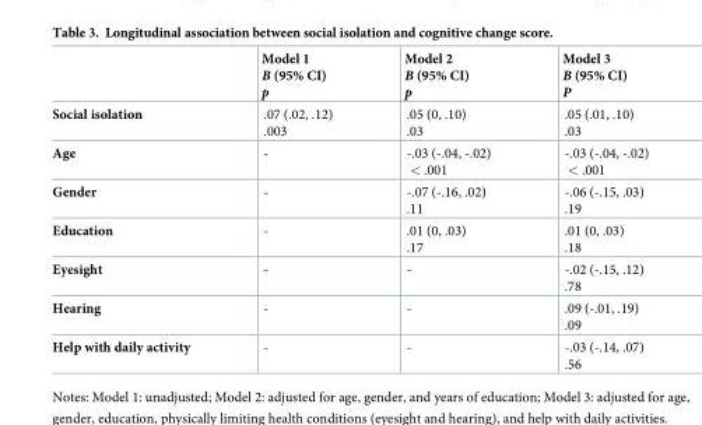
<table><thead><tr><td></td><td>Model 1 B (95% CI) p</td><td>Model 2 B (95% CI) p</td><td>Model 3 B (95% CI) P</td></tr></thead><tbody><tr><td>Social isolation</td><td>.07 (.02, .12) .003</td><td>.05 (0, .10) .03</td><td>.05 (.01, .10) .03</td></tr><tr><td>Age</td><td>-</td><td>-.03 (-.04, -.02) &lt; .001</td><td>-.03 (-.04, -.02) &lt; .001</td></tr><tr><td>Gender</td><td>-</td><td>-.07 (-.16, .02) .11</td><td>-.06 (-.15, .03) .19</td></tr><tr><td>Education</td><td>-</td><td>.01 (0, .03) .17</td><td>.01 (0, .03) .18</td></tr><tr><td>Eyesight</td><td>-</td><td>-</td><td>-.02 (-.15, .12) .78</td></tr><tr><td>Hearing</td><td>-</td><td>-</td><td>.09 (-.01, .19) .09</td></tr><tr><td>Help with daily activity</td><td>-</td><td>-</td><td>-.03 (-.14, .07) .56</td></tr></tbody></table>